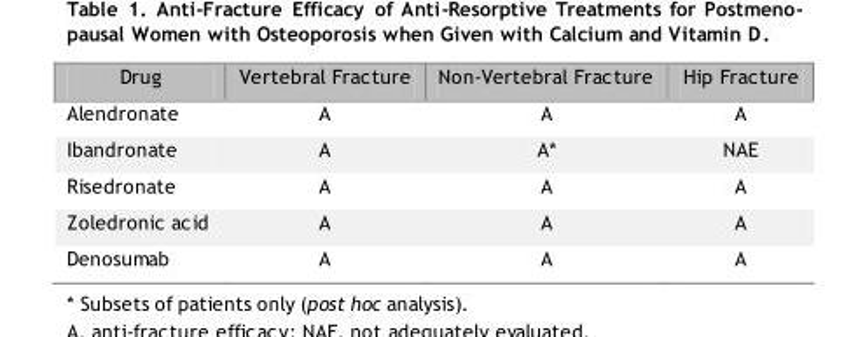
<table><thead><tr><td>Drug</td><td>Vertebral Fracture</td><td>Non-Vertebral Fracture</td><td>Hip Fracture</td></tr></thead><tbody><tr><td>Alendronate</td><td>A</td><td>A</td><td>A</td></tr><tr><td>Ibandronate</td><td>A</td><td>A*</td><td>NAE</td></tr><tr><td>Risedronate</td><td>A</td><td>A</td><td>A</td></tr><tr><td>Zoledronic acid</td><td>A</td><td>A</td><td>A</td></tr><tr><td>Denosumab</td><td>A</td><td>A</td><td>A</td></tr></tbody></table>